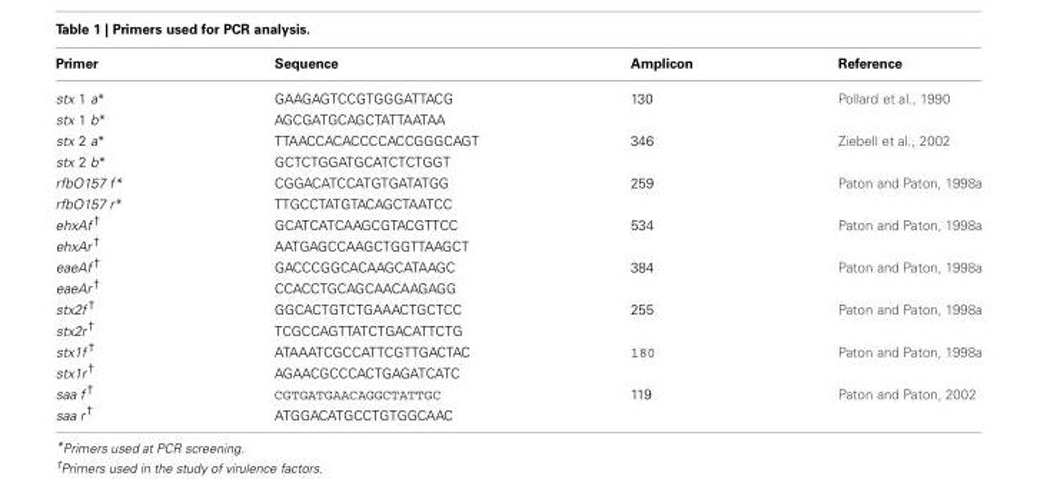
<table><thead><tr><td>Primer</td><td>Sequence</td><td>Amplicon</td><td>Reference</td></tr></thead><tbody><tr><td>stx 1 a*</td><td>GAAGAGTCCGTGGGATTACG</td><td>130</td><td>Pollard et al., 1990</td></tr><tr><td>stx 1 b*</td><td>AGCGATGCAGCTATTAATAA</td><td></td><td></td></tr><tr><td>stx 2 a*</td><td>TTAACCACACCCCACCGGGCAGT</td><td>346</td><td>Ziebell et al., 2002</td></tr><tr><td>stx 2 b*</td><td>GCTCTGGATGCATCTCTGGT</td><td></td><td></td></tr><tr><td>rfbO157 f*</td><td>CGGACATCCATGTGATATGG</td><td>259</td><td>Paton and Paton, 1998a</td></tr><tr><td>rfbO157 r*</td><td>TTGCCTATGTACAGCTAATCC</td><td></td><td></td></tr><tr><td>ehxAf<sup>†</sup></td><td>GCATCATCAAGCGTACGTTCC</td><td>534</td><td>Paton and Paton, 1998a</td></tr><tr><td>ehxAr<sup>†</sup></td><td>AATGAGCCAAGCTGGTTAAGCT</td><td></td><td></td></tr><tr><td>eaeAf<sup>†</sup></td><td>GACCCGGCACAAGCATAAGC</td><td>384</td><td>Paton and Paton, 1998a</td></tr><tr><td>eaeAr<sup>†</sup></td><td>CCACCTGCAGCAACAAGAGG</td><td></td><td></td></tr><tr><td>stx2f<sup>†</sup></td><td>GGCACTGTCTGAAACTGCTCC</td><td>255</td><td>Paton and Paton, 1998a</td></tr><tr><td>stx2r<sup>†</sup></td><td>TCGCCAGTTATCTGACATTCTG</td><td></td><td></td></tr><tr><td>stx1f<sup>†</sup></td><td>ATAAATCGCCATTCGTTGACTAC</td><td>180</td><td>Paton and Paton, 1998a</td></tr><tr><td>stx1r<sup>†</sup></td><td>AGAACGCCCACTGAGATCATC</td><td></td><td></td></tr><tr><td>saa f<sup>†</sup></td><td>CGTGATGAACAGGCTATTGC</td><td>119</td><td>Paton and Paton, 2002</td></tr><tr><td>saa r<sup>†</sup></td><td>ATGGACATGCCTGTGGCAAC</td><td></td><td></td></tr></tbody></table>